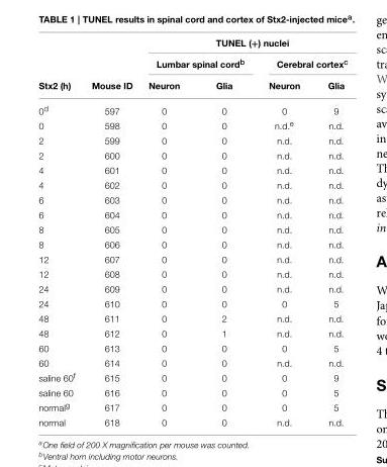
<table><thead><tr><td rowspan="3">Stx2 (h)</td><td rowspan="3">Mouse ID</td><td colspan="4">TUNEL (+) nuclei</td></tr><tr><td colspan="2">Lumbar spinal cord<sup>b</sup></td><td colspan="2">Cerebral cortex<sup>c</sup></td></tr><tr><td>Neuron</td><td>Glia</td><td>Neuron</td><td>Glia</td></tr></thead><tbody><tr><td>0<sup>d</sup></td><td>597</td><td>0</td><td>0</td><td>0</td><td>9</td></tr><tr><td>0</td><td>598</td><td>0</td><td>0</td><td>n.d.<sup>e</sup></td><td>n.d.</td></tr><tr><td>2</td><td>599</td><td>0</td><td>0</td><td>n.d.</td><td>n.d.</td></tr><tr><td>2</td><td>600</td><td>0</td><td>0</td><td>n.d.</td><td>n.d.</td></tr><tr><td>4</td><td>601</td><td>0</td><td>0</td><td>n.d.</td><td>n.d.</td></tr><tr><td>4</td><td>602</td><td>0</td><td>0</td><td>n.d.</td><td>n.d.</td></tr><tr><td>6</td><td>603</td><td>0</td><td>0</td><td>n.d.</td><td>n.d.</td></tr><tr><td>6</td><td>604</td><td>0</td><td>0</td><td>n.d.</td><td>n.d.</td></tr><tr><td>8</td><td>605</td><td>0</td><td>0</td><td>n.d.</td><td>n.d.</td></tr><tr><td>8</td><td>606</td><td>0</td><td>0</td><td>n.d.</td><td>n.d.</td></tr><tr><td>12</td><td>607</td><td>0</td><td>0</td><td>n.d.</td><td>n.d.</td></tr><tr><td>12</td><td>608</td><td>0</td><td>0</td><td>n.d.</td><td>n.d.</td></tr><tr><td>24</td><td>609</td><td>0</td><td>0</td><td>n.d.</td><td>n.d.</td></tr><tr><td>24</td><td>610</td><td>0</td><td>0</td><td>0</td><td>5</td></tr><tr><td>48</td><td>611</td><td>0</td><td>2</td><td>n.d.</td><td>n.d.</td></tr><tr><td>48</td><td>612</td><td>0</td><td>1</td><td>n.d.</td><td>n.d.</td></tr><tr><td>60</td><td>613</td><td>0</td><td>0</td><td>0</td><td>5</td></tr><tr><td>60</td><td>614</td><td>0</td><td>0</td><td>n.d.</td><td>n.d.</td></tr><tr><td>saline 60<sup>f</sup></td><td>615</td><td>0</td><td>0</td><td>0</td><td>9</td></tr><tr><td>saline 60</td><td>616</td><td>0</td><td>0</td><td>0</td><td>5</td></tr><tr><td>normal<sup>g</sup></td><td>617</td><td>0</td><td>0</td><td>0</td><td>5</td></tr><tr><td>normal</td><td>618</td><td>0</td><td>0</td><td>n.d.</td><td>n.d.</td></tr></tbody></table>